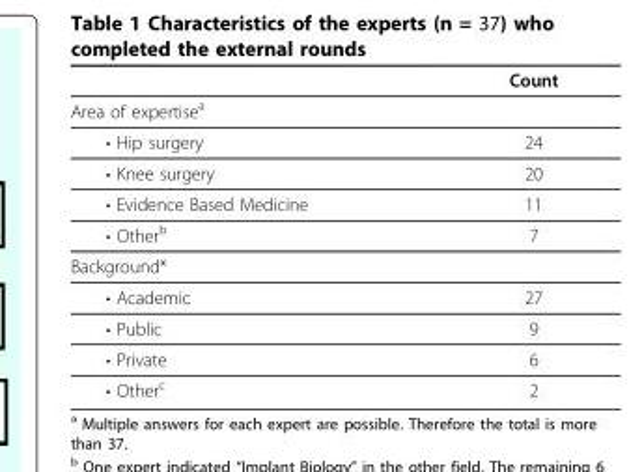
<table><thead><tr><td></td><td>Count</td></tr></thead><tbody><tr><td colspan="2">Area of expertise<sup>a</sup></td></tr><tr><td>• Hip surgery</td><td>24</td></tr><tr><td>• Knee surgery</td><td>20</td></tr><tr><td>• Evidence Based Medicine</td><td>11</td></tr><tr><td>• Other<sup>b</sup></td><td>7</td></tr><tr><td colspan="2">Background*</td></tr><tr><td>• Academic</td><td>27</td></tr><tr><td>• Public</td><td>9</td></tr><tr><td>• Private</td><td>6</td></tr><tr><td>• Other<sup>c</sup></td><td>2</td></tr></tbody></table>